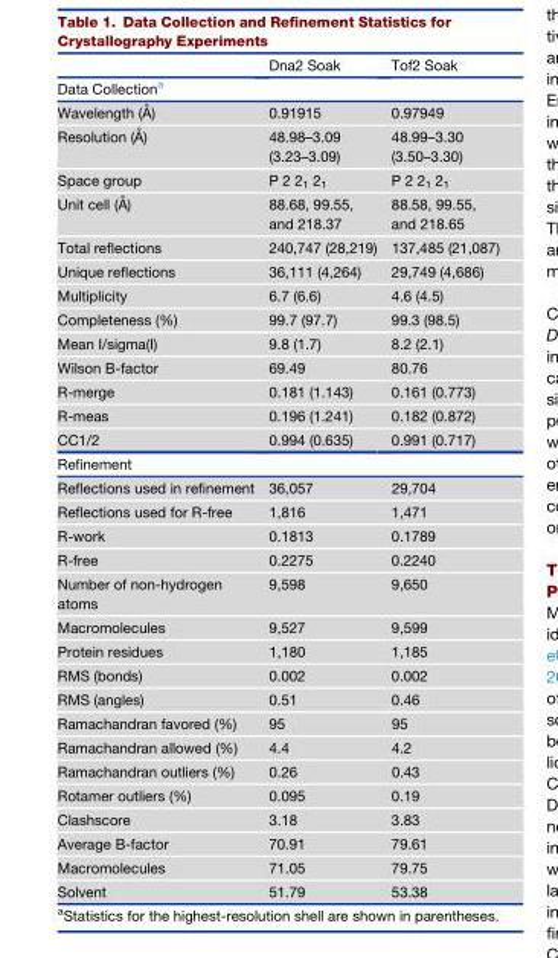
<table><thead><tr><td></td><td>Dna2 Soak</td><td>Tof2 Soak</td></tr></thead><tbody><tr><td colspan="3">Data Collection<sup>a</sup></td></tr><tr><td>Wavelength (A˚ )</td><td>0.91915</td><td>0.97949</td></tr><tr><td>Resolution (A˚ )</td><td>48.98–3.09 (3.23–3.09)</td><td>48.99–3.30 (3.50–3.30)</td></tr><tr><td>Space group</td><td>P 2 2<sub>1</sub> 2<sub>1</sub></td><td>P 2 2<sub>1</sub> 2<sub>1</sub></td></tr><tr><td>Unit cell (A˚ )</td><td>88.68, 99.55, and 218.37</td><td>88.58, 99.55, and 218.65</td></tr><tr><td>Total reflections</td><td>240,747 (28,219)</td><td>137,485 (21,087)</td></tr><tr><td>Unique reflections</td><td>36,111 (4,264)</td><td>29,749 (4,686)</td></tr><tr><td>Multiplicity</td><td>6.7 (6.6)</td><td>4.6 (4.5)</td></tr><tr><td>Completeness (%)</td><td>99.7 (97.7)</td><td>99.3 (98.5)</td></tr><tr><td>Mean I/sigma(I)</td><td>9.8 (1.7)</td><td>8.2 (2.1)</td></tr><tr><td>Wilson B-factor</td><td>69.49</td><td>80.76</td></tr><tr><td>R-merge</td><td>0.181 (1.143)</td><td>0.161 (0.773)</td></tr><tr><td>R-meas</td><td>0.196 (1.241)</td><td>0.182 (0.872)</td></tr><tr><td>CC1/2</td><td>0.994 (0.635)</td><td>0.991 (0.717)</td></tr><tr><td colspan="3">Refinement</td></tr><tr><td>Reflections used in refinement</td><td>36,057</td><td>29,704</td></tr><tr><td>Reflections used for R-free</td><td>1,816</td><td>1,471</td></tr><tr><td>R-work</td><td>0.1813</td><td>0.1789</td></tr><tr><td>R-free</td><td>0.2275</td><td>0.2240</td></tr><tr><td>Number of non-hydrogen atoms</td><td>9,598</td><td>9,650</td></tr><tr><td>Macromolecules</td><td>9,527</td><td>9,599</td></tr><tr><td>Protein residues</td><td>1,180</td><td>1,185</td></tr><tr><td>RMS (bonds)</td><td>0.002</td><td>0.002</td></tr><tr><td>RMS (angles)</td><td>0.51</td><td>0.46</td></tr><tr><td>Ramachandran favored (%)</td><td>95</td><td>95</td></tr><tr><td>Ramachandran allowed (%)</td><td>4.4</td><td>4.2</td></tr><tr><td>Ramachandran outliers (%)</td><td>0.26</td><td>0.43</td></tr><tr><td>Rotamer outliers (%)</td><td>0.095</td><td>0.19</td></tr><tr><td>Clashscore</td><td>3.18</td><td>3.83</td></tr><tr><td>Average B-factor</td><td>70.91</td><td>79.61</td></tr><tr><td>Macromolecules</td><td>71.05</td><td>79.75</td></tr><tr><td>Solvent</td><td>51.79</td><td>53.38</td></tr></tbody></table>